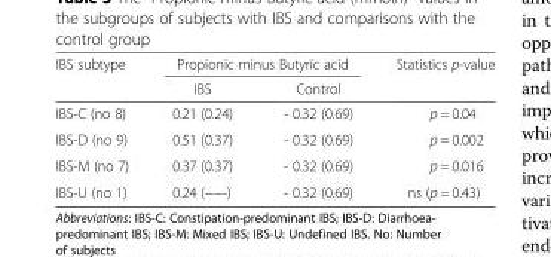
<table><thead><tr><td rowspan="2">IBS subtype</td><td colspan="2">Propionic minus Butyric acid</td><td rowspan="2">Statistics p-value</td></tr><tr><td>IBS</td><td>Control</td></tr></thead><tbody><tr><td>IBS-C (no 8)</td><td>0.21 (0.24)</td><td>- 0.32 (0.69)</td><td>p = 0.04</td></tr><tr><td>IBS-D (no 9)</td><td>0.51 (0.37)</td><td>- 0.32 (0.69)</td><td>p = 0.002</td></tr><tr><td>IBS-M (no 7)</td><td>0.37 (0.37)</td><td>- 0.32 (0.69)</td><td>p = 0.016</td></tr><tr><td>IBS-U (no 1)</td><td>0.24 (−−-)</td><td>- 0.32 (0.69)</td><td>ns (p = 0.43)</td></tr></tbody></table>